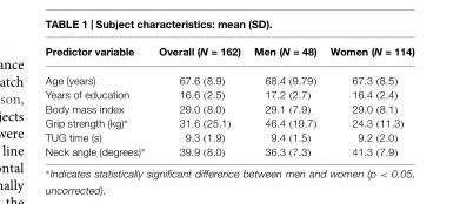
<table><thead><tr><td>Predictor variable</td><td>Overall (N = 162)</td><td>Men (N = 48)</td><td>Women (N = 114)</td></tr></thead><tbody><tr><td>Age (years)</td><td>67.6 (8.9)</td><td>68.4 (9.79)</td><td>67.3 (8.5)</td></tr><tr><td>Years of education</td><td>16.6 (2.5)</td><td>17.2 (2.7)</td><td>16.4 (2.4)</td></tr><tr><td>Body mass index</td><td>29.0 (8.0)</td><td>29.1 (7.9)</td><td>29.0 (8.1)</td></tr><tr><td>Grip strength (kg)∗</td><td>31.6 (25.1)</td><td>46.4 (19.7)</td><td>24.3 (11.3)</td></tr><tr><td>TUG time (s)</td><td>9.3 (1.9)</td><td>9.4 (1.5)</td><td>9.2 (2.0)</td></tr><tr><td>Neck angle (degrees)∗</td><td>39.9 (8.0)</td><td>36.3 (7.3)</td><td>41.3 (7.9)</td></tr></tbody></table>